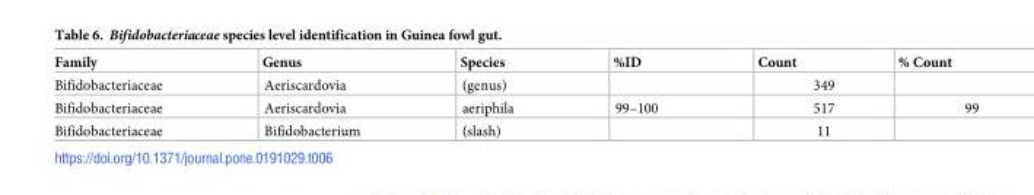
<table><thead><tr><td>Family</td><td>Genus</td><td>Species</td><td>%ID</td><td>Count</td><td>% Count</td></tr></thead><tbody><tr><td>Bifidobacteriaceae</td><td>Aeriscardovia</td><td>(genus)</td><td></td><td>349</td><td></td></tr><tr><td>Bifidobacteriaceae</td><td>Aeriscardovia</td><td>aeriphila</td><td>99–100</td><td>517</td><td>99</td></tr><tr><td>Bifidobacteriaceae</td><td>Bifidobacterium</td><td>(slash)</td><td></td><td>11</td><td></td></tr></tbody></table>